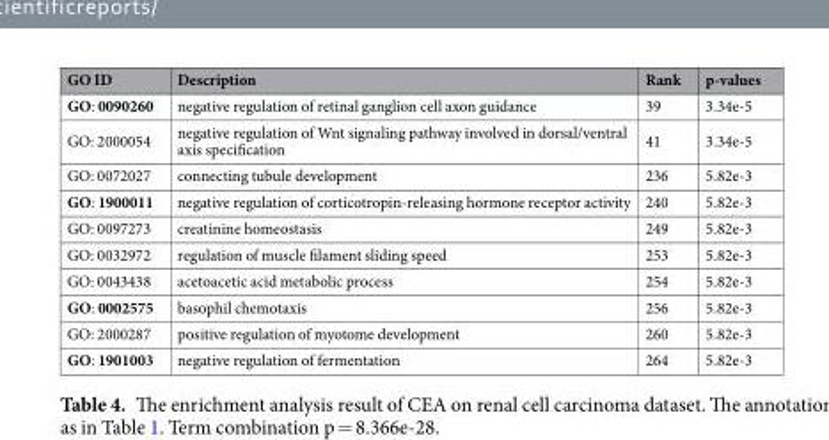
<table><thead><tr><td>GO ID</td><td>Description</td><td>Rank</td><td>p-values</td></tr></thead><tbody><tr><td>GO: 0090260</td><td>negative regulation of retinal ganglion cell axon guidance</td><td>39</td><td>3.34e-5</td></tr><tr><td>GO: 2000054</td><td>negative regulation of Wnt signaling pathway involved in dorsal/ventral axis specification</td><td>41</td><td>3.34e-5</td></tr><tr><td>GO: 0072027</td><td>connecting tubule development</td><td>236</td><td>5.82e-3</td></tr><tr><td>GO: 1900011</td><td>negative regulation of corticotropin-releasing hormone receptor activity</td><td>240</td><td>5.82e-3</td></tr><tr><td>GO: 0097273</td><td>creatinine homeostasis</td><td>249</td><td>5.82e-3</td></tr><tr><td>GO: 0032972</td><td>regulation of muscle filament sliding speed</td><td>253</td><td>5.82e-3</td></tr><tr><td>GO: 0043438</td><td>acetoacetic acid metabolic process</td><td>254</td><td>5.82e-3</td></tr><tr><td>GO: 0002575</td><td>basophil chemotaxis</td><td>256</td><td>5.82e-3</td></tr><tr><td>GO: 2000287</td><td>positive regulation of myotome development</td><td>260</td><td>5.82e-3</td></tr><tr><td>GO: 1901003</td><td>negative regulation of fermentation</td><td>264</td><td>5.82e-3</td></tr></tbody></table>